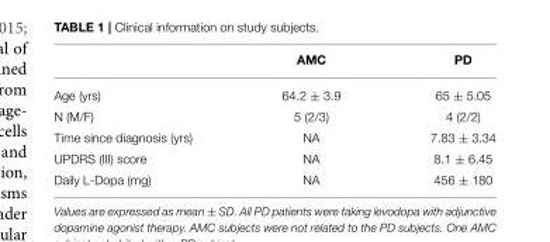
<table><thead><tr><td></td><td>AMC</td><td>PD</td></tr></thead><tbody><tr><td>Age (yrs)</td><td>64.2 ± 3.9</td><td>65 ± 5.05</td></tr><tr><td>N (M/F)</td><td>5 (2/3)</td><td>4 (2/2)</td></tr><tr><td>Time since diagnosis (yrs)</td><td>NA</td><td>7.83 ± 3.34</td></tr><tr><td>UPDRS (III) score</td><td>NA</td><td>8.1 ± 6.45</td></tr><tr><td>Daily L-Dopa (mg)</td><td>NA</td><td>456 ± 180</td></tr></tbody></table>